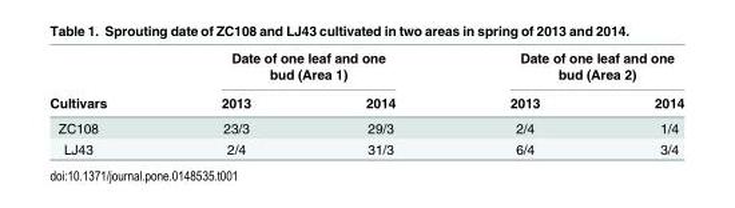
<table><thead><tr><td rowspan="2">Cultivars</td><td colspan="2">Date of one leaf and one bud (Area 1)</td><td colspan="2">Date of one leaf and one bud (Area 2)</td></tr><tr><td>2013</td><td>2014</td><td>2013</td><td>2014</td></tr></thead><tbody><tr><td>ZC108</td><td>23/3</td><td>29/3</td><td>2/4</td><td>1/4</td></tr><tr><td>LJ43</td><td>2/4</td><td>31/3</td><td>6/4</td><td>3/4</td></tr></tbody></table>